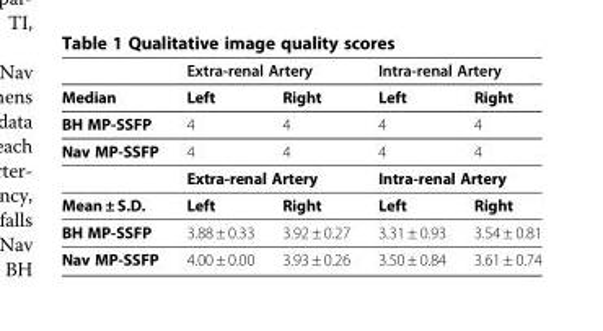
<table><thead><tr><td rowspan="2">Median</td><td colspan="2">Extra-renal Artery</td><td colspan="2">Intra-renal Artery</td></tr><tr><td>Left</td><td>Right</td><td>Left</td><td>Right</td></tr></thead><tbody><tr><td>BH MP-SSFP</td><td>4</td><td>4</td><td>4</td><td>4</td></tr><tr><td rowspan="2">Nav MP-SSFP</td><td>4</td><td>4</td><td>4</td><td>4</td></tr><tr><td colspan="2">Extra-renal Artery</td><td colspan="2">Intra-renal Artery</td></tr><tr><td>Mean ± S.D.</td><td>Left</td><td>Right</td><td>Left</td><td>Right</td></tr><tr><td>BH MP-SSFP</td><td>3.88 ± 0.33</td><td>3.92 ± 0.27</td><td>3.31 ± 0.93</td><td>3.54 ± 0.81</td></tr><tr><td>Nav MP-SSFP</td><td>4.00 ± 0.00</td><td>3.93 ± 0.26</td><td>3.50 ± 0.84</td><td>3.61 ± 0.74</td></tr></tbody></table>